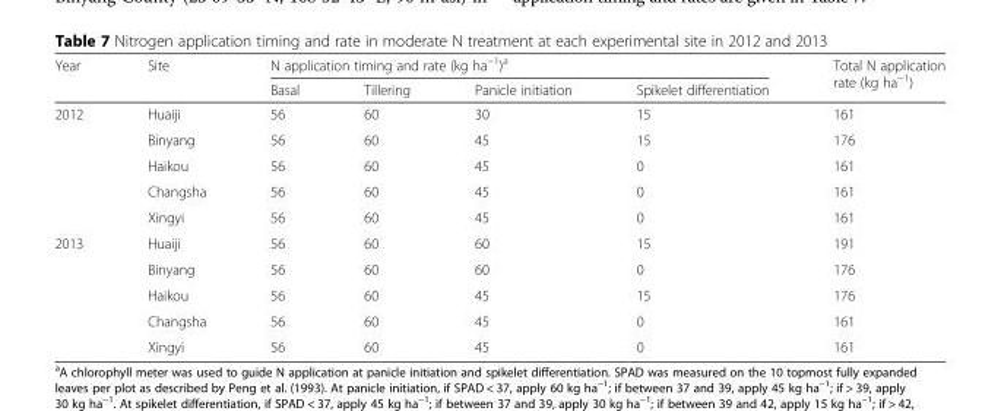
<table><thead><tr><td rowspan="2">Year</td><td rowspan="2">Site</td><td colspan="4">N application timing and rate (kg ha<sup>−1</sup>)<sup>a</sup></td><td rowspan="2">Total N application rate (kg ha<sup>−1</sup>)</td></tr><tr><td>Basal</td><td>Tillering</td><td>Panicle initiation</td><td>Spikelet differentiation</td></tr></thead><tbody><tr><td rowspan="5">2012</td><td>Huaiji</td><td>56</td><td>60</td><td>30</td><td>15</td><td>161</td></tr><tr><td>Binyang</td><td>56</td><td>60</td><td>45</td><td>15</td><td>176</td></tr><tr><td>Haikou</td><td>56</td><td>60</td><td>45</td><td>0</td><td>161</td></tr><tr><td>Changsha</td><td>56</td><td>60</td><td>45</td><td>0</td><td>161</td></tr><tr><td>Xingyi</td><td>56</td><td>60</td><td>45</td><td>0</td><td>161</td></tr><tr><td rowspan="5">2013</td><td>Huaiji</td><td>56</td><td>60</td><td>60</td><td>15</td><td>191</td></tr><tr><td>Binyang</td><td>56</td><td>60</td><td>60</td><td>0</td><td>176</td></tr><tr><td>Haikou</td><td>56</td><td>60</td><td>45</td><td>15</td><td>176</td></tr><tr><td>Changsha</td><td>56</td><td>60</td><td>45</td><td>0</td><td>161</td></tr><tr><td>Xingyi</td><td>56</td><td>60</td><td>45</td><td>0</td><td>161</td></tr></tbody></table>